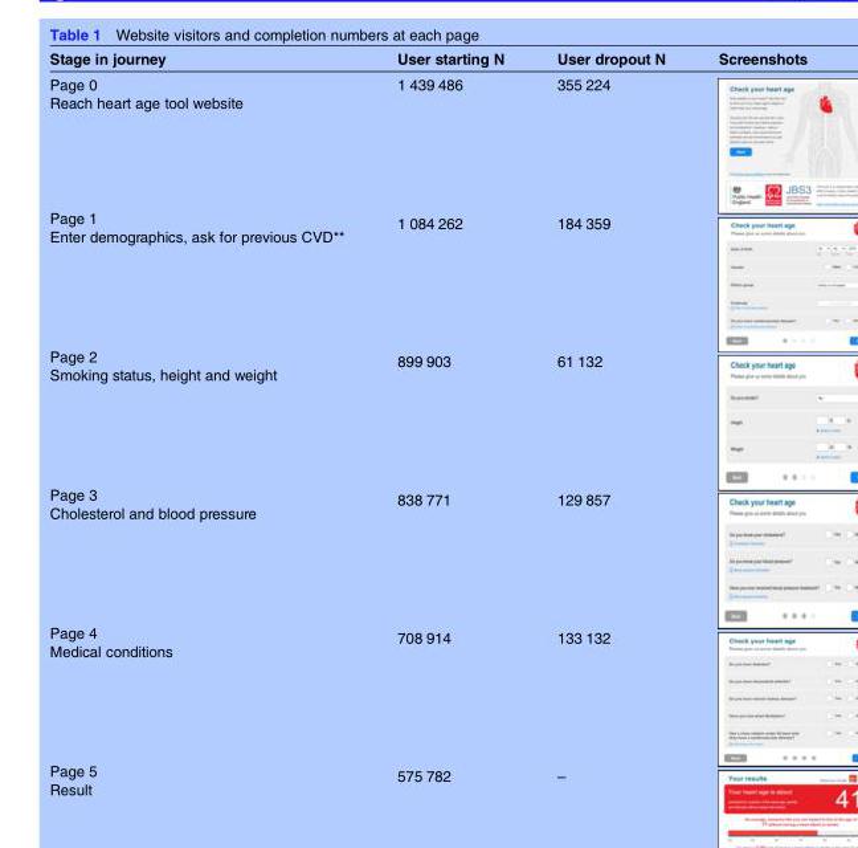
<table><thead><tr><td>Stage in journey</td><td>User starting N</td><td>User dropout N</td><td>Screenshots</td></tr></thead><tbody><tr><td>Page 0 Reach heart age tool website</td><td>1 439 486</td><td>355 224</td><td></td></tr><tr><td>Page 1 Enter demographics, ask for previous CVD**</td><td>1 084 262</td><td>184 359</td><td></td></tr><tr><td>Page 2 Smoking status, height and weight</td><td>899 903</td><td>61 132</td><td></td></tr><tr><td>Page 3 Cholesterol and blood pressure</td><td>838 771</td><td>129 857</td><td></td></tr><tr><td>Page 4 Medical conditions</td><td>708 914</td><td>133 132</td><td></td></tr><tr><td>Page 5 Result</td><td>575 782</td><td>–</td><td></td></tr></tbody></table>